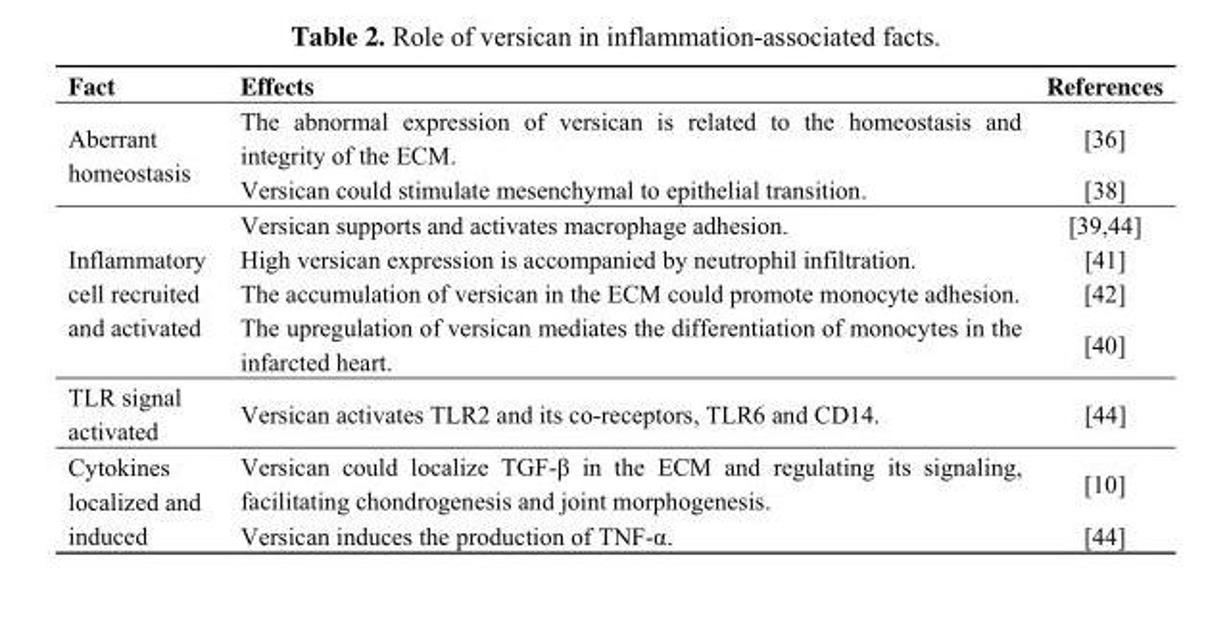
<table><thead><tr><td>Fact</td><td>Effects</td><td>References</td></tr></thead><tbody><tr><td rowspan="2">Aberrant homeostasis</td><td>The abnormal expression of versican is related to the homeostasis and integrity of the ECM.</td><td>[36]</td></tr><tr><td>Versican could stimulate mesenchymal to epithelial transition.</td><td>[38]</td></tr><tr><td rowspan="4">Inflammatory cell recruited and activated</td><td>Versican supports and activates macrophage adhesion.</td><td>[39,44]</td></tr><tr><td>High versican expression is accompanied by neutrophil infiltration.</td><td>[41]</td></tr><tr><td>The accumulation of versican in the ECM could promote monocyte adhesion.</td><td>[42]</td></tr><tr><td>The upregulation of versican mediates the differentiation of monocytes in the infarcted heart.</td><td>[40]</td></tr><tr><td>TLR signal activated</td><td>Versican activates TLR2 and its co-receptors, TLR6 and CD14.</td><td>[44]</td></tr><tr><td rowspan="2">Cytokines localized and induced</td><td>Versican could localize TGF-β in the ECM and regulating its signaling, facilitating chondrogenesis and joint morphogenesis.</td><td>[10]</td></tr><tr><td>Versican induces the production of TNF-α.</td><td>[44]</td></tr></tbody></table>